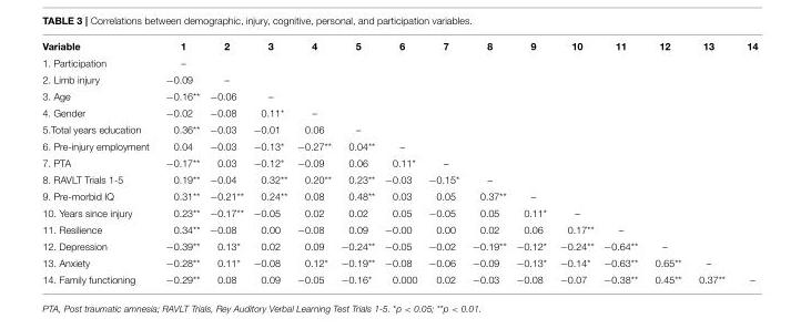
<table><thead><tr><td>Variable</td><td>1</td><td>2</td><td>3</td><td>4</td><td>5</td><td>6</td><td>7</td><td>8</td><td>9</td><td>10</td><td>11</td><td>12</td><td>13</td><td>14</td></tr></thead><tbody><tr><td>1. Participation</td><td>–</td><td></td><td></td><td></td><td></td><td></td><td></td><td></td><td></td><td></td><td></td><td></td><td></td><td></td></tr><tr><td>2. Limb injury</td><td>−0.09</td><td>–</td><td></td><td></td><td></td><td></td><td></td><td></td><td></td><td></td><td></td><td></td><td></td><td></td></tr><tr><td>3. Age</td><td>−0.16**</td><td>−0.06</td><td>–</td><td></td><td></td><td></td><td></td><td></td><td></td><td></td><td></td><td></td><td></td><td></td></tr><tr><td>4. Gender</td><td>−0.02</td><td>−0.08</td><td>0.11*</td><td>–</td><td></td><td></td><td></td><td></td><td></td><td></td><td></td><td></td><td></td><td></td></tr><tr><td>5.Total years education</td><td>0.36**</td><td>−0.03</td><td>−0.01</td><td>0.06</td><td>–</td><td></td><td></td><td></td><td></td><td></td><td></td><td></td><td></td><td></td></tr><tr><td>6. Pre-injury employment</td><td>0.04</td><td>−0.03</td><td>−0.13*</td><td>−0.27**</td><td>0.04**</td><td>–</td><td></td><td></td><td></td><td></td><td></td><td></td><td></td><td></td></tr><tr><td>7. PTA</td><td>−0.17**</td><td>0.03</td><td>−0.12*</td><td>−0.09</td><td>0.06</td><td>0.11*</td><td>–</td><td></td><td></td><td></td><td></td><td></td><td></td><td></td></tr><tr><td>8. RAVLT Trials 1-5</td><td>0.19**</td><td>−0.04</td><td>0.32**</td><td>0.20**</td><td>0.23**</td><td>−0.03</td><td>−0.15*</td><td>–</td><td></td><td></td><td></td><td></td><td></td><td></td></tr><tr><td>9. Pre-morbid IQ</td><td>0.31**</td><td>−0.21**</td><td>0.24**</td><td>0.08</td><td>0.48**</td><td>0.03</td><td>0.05</td><td>0.37**</td><td>–</td><td></td><td></td><td></td><td></td><td></td></tr><tr><td>10. Years since injury</td><td>0.23**</td><td>−0.17**</td><td>−0.05</td><td>0.02</td><td>0.02</td><td>0.05</td><td>−0.05</td><td>0.05</td><td>0.11*</td><td>–</td><td></td><td></td><td></td><td></td></tr><tr><td>11. Resilience</td><td>0.34**</td><td>−0.08</td><td>0.00</td><td>−0.08</td><td>0.09</td><td>−0.00</td><td>0.00</td><td>0.02</td><td>0.06</td><td>0.17**</td><td>–</td><td></td><td></td><td></td></tr><tr><td>12. Depression</td><td>−0.39**</td><td>0.13*</td><td>0.02</td><td>0.09</td><td>−0.24**</td><td>−0.05</td><td>−0.02</td><td>−0.19**</td><td>−0.12*</td><td>−0.24**</td><td>−0.64**</td><td>–</td><td></td><td></td></tr><tr><td>13. Anxiety</td><td>−0.28**</td><td>0.11*</td><td>−0.08</td><td>0.12*</td><td>−0.19**</td><td>−0.08</td><td>−0.06</td><td>−0.09</td><td>−0.13*</td><td>−0.14*</td><td>−0.63**</td><td>0.65**</td><td>–</td><td></td></tr><tr><td>14. Family functioning</td><td>−0.29**</td><td>0.08</td><td>0.09</td><td>−0.05</td><td>−0.16*</td><td>0.000</td><td>0.02</td><td>−0.03</td><td>−0.08</td><td>−0.07</td><td>−0.38**</td><td>0.45**</td><td>0.37**</td><td>–</td></tr></tbody></table>